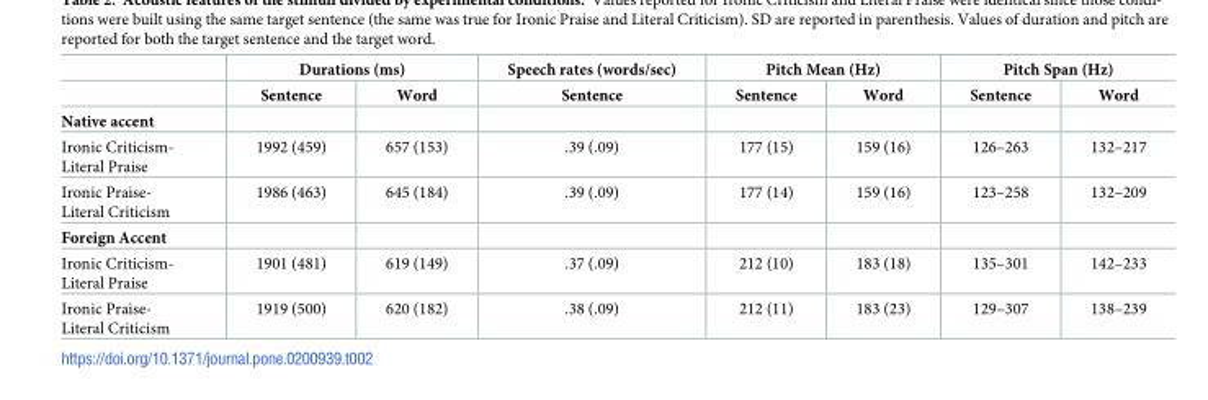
<table><thead><tr><td rowspan="2"></td><td colspan="2">Durations (ms)</td><td rowspan="2">Speech rates (words/sec) Sentence</td><td colspan="2">Pitch Mean (Hz)</td><td colspan="2">Pitch Span (Hz)</td></tr><tr><td>Sentence</td><td>Word</td><td>Sentence</td><td>Word</td><td>Sentence</td><td>Word</td></tr></thead><tbody><tr><td colspan="8">Native accent</td></tr><tr><td>Ironic Criticism- Literal Praise</td><td>1992 (459)</td><td>657 (153)</td><td>.39 (.09)</td><td>177 (15)</td><td>159 (16)</td><td>126–263</td><td>132–217</td></tr><tr><td>Ironic Praise- Literal Criticism</td><td>1986 (463)</td><td>645 (184)</td><td>.39 (.09)</td><td>177 (14)</td><td>159 (16)</td><td>123–258</td><td>132–209</td></tr><tr><td colspan="8">Foreign Accent</td></tr><tr><td>Ironic Criticism- Literal Praise</td><td>1901 (481)</td><td>619 (149)</td><td>.37 (.09)</td><td>212 (10)</td><td>183 (18)</td><td>135–301</td><td>142–233</td></tr><tr><td>Ironic Praise- Literal Criticism</td><td>1919 (500)</td><td>620 (182)</td><td>.38 (.09)</td><td>212 (11)</td><td>183 (23)</td><td>129–307</td><td>138–239</td></tr></tbody></table>